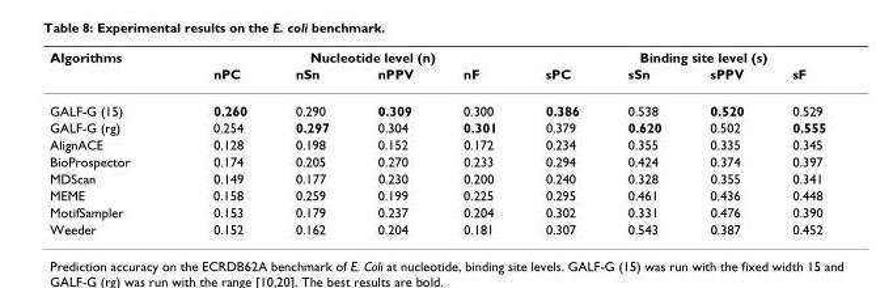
<table><thead><tr><td rowspan="2">Algorithms</td><td colspan="4">Nucleotide level (n)</td><td colspan="4">Binding site level (s)</td></tr><tr><td>nPC</td><td>nSn</td><td>nPPV</td><td>nF</td><td>sPC</td><td>sSn</td><td>sPPV</td><td>sF</td></tr></thead><tbody><tr><td>GALF-G (15)</td><td>0.260</td><td>0.290</td><td>0.309</td><td>0.300</td><td>0.386</td><td>0.538</td><td>0.520</td><td>0.529</td></tr><tr><td>GALF-G (rg)</td><td>0.254</td><td>0.297</td><td>0.304</td><td>0.301</td><td>0.379</td><td>0.620</td><td>0.502</td><td>0.555</td></tr><tr><td>AlignACE</td><td>0.128</td><td>0.198</td><td>0.152</td><td>0.172</td><td>0.234</td><td>0.355</td><td>0.335</td><td>0.345</td></tr><tr><td>BioProspector</td><td>0.174</td><td>0.205</td><td>0.270</td><td>0.233</td><td>0.294</td><td>0.424</td><td>0.374</td><td>0.397</td></tr><tr><td>MDScan</td><td>0.149</td><td>0.177</td><td>0.230</td><td>0.200</td><td>0.240</td><td>0.328</td><td>0.355</td><td>0.341</td></tr><tr><td>MEME</td><td>0.158</td><td>0.259</td><td>0.199</td><td>0.225</td><td>0.295</td><td>0.461</td><td>0.436</td><td>0.448</td></tr><tr><td>MotifSampler</td><td>0.153</td><td>0.179</td><td>0.237</td><td>0.204</td><td>0.302</td><td>0.331</td><td>0.476</td><td>0.390</td></tr><tr><td>Weeder</td><td>0.152</td><td>0.162</td><td>0.204</td><td>0.181</td><td>0.307</td><td>0.543</td><td>0.387</td><td>0.452</td></tr></tbody></table>